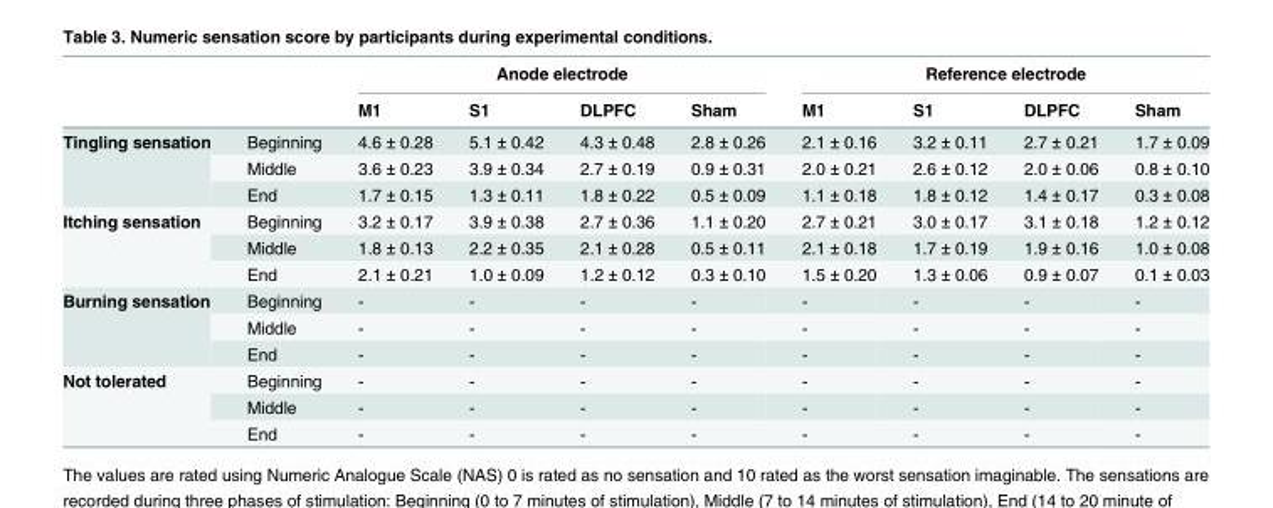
<table><thead><tr><td rowspan="2"></td><td rowspan="2"></td><td colspan="4">Anode electrode</td><td colspan="4">Reference electrode</td></tr><tr><td>M1</td><td>S1</td><td>DLPFC</td><td>Sham</td><td>M1</td><td>S1</td><td>DLPFC</td><td>Sham</td></tr></thead><tbody><tr><td rowspan="3">Tingling sensation</td><td>Beginning</td><td>4.6 ± 0.28</td><td>5.1 ± 0.42</td><td>4.3 ± 0.48</td><td>2.8 ± 0.26</td><td>2.1 ± 0.16</td><td>3.2 ± 0.11</td><td>2.7 ± 0.21</td><td>1.7 ± 0.09</td></tr><tr><td>Middle</td><td>3.6 ± 0.23</td><td>3.9 ± 0.34</td><td>2.7 ± 0.19</td><td>0.9 ± 0.31</td><td>2.0 ± 0.21</td><td>2.6 ± 0.12</td><td>2.0 ± 0.06</td><td>0.8 ± 0.10</td></tr><tr><td>End</td><td>1.7 ± 0.15</td><td>1.3 ± 0.11</td><td>1.8 ± 0.22</td><td>0.5 ± 0.09</td><td>1.1 ± 0.18</td><td>1.8 ± 0.12</td><td>1.4 ± 0.17</td><td>0.3 ± 0.08</td></tr><tr><td rowspan="3">Itching sensation</td><td>Beginning</td><td>3.2 ± 0.17</td><td>3.9 ± 0.38</td><td>2.7 ± 0.36</td><td>1.1 ± 0.20</td><td>2.7 ± 0.21</td><td>3.0 ± 0.17</td><td>3.1 ± 0.18</td><td>1.2 ± 0.12</td></tr><tr><td>Middle</td><td>1.8 ± 0.13</td><td>2.2 ± 0.35</td><td>2.1 ± 0.28</td><td>0.5 ± 0.11</td><td>2.1 ± 0.18</td><td>1.7 ± 0.19</td><td>1.9 ± 0.16</td><td>1.0 ± 0.08</td></tr><tr><td>End</td><td>2.1 ± 0.21</td><td>1.0 ± 0.09</td><td>1.2 ± 0.12</td><td>0.3 ± 0.10</td><td>1.5 ± 0.20</td><td>1.3 ± 0.06</td><td>0.9 ± 0.07</td><td>0.1 ± 0.03</td></tr><tr><td rowspan="3">Burning sensation</td><td>Beginning</td><td>-</td><td>-</td><td>-</td><td>-</td><td>-</td><td>-</td><td>-</td><td>-</td></tr><tr><td>Middle</td><td>-</td><td>-</td><td>-</td><td>-</td><td>-</td><td>-</td><td>-</td><td>-</td></tr><tr><td>End</td><td>-</td><td>-</td><td>-</td><td>-</td><td>-</td><td>-</td><td>-</td><td>-</td></tr><tr><td rowspan="3">Not tolerated</td><td>Beginning</td><td>-</td><td>-</td><td>-</td><td>-</td><td>-</td><td>-</td><td>-</td><td>-</td></tr><tr><td>Middle</td><td>-</td><td>-</td><td>-</td><td>-</td><td>-</td><td>-</td><td>-</td><td>-</td></tr><tr><td>End</td><td>-</td><td>-</td><td>-</td><td>-</td><td>-</td><td>-</td><td>-</td><td>-</td></tr></tbody></table>